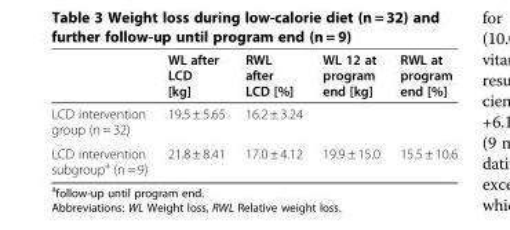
<table><thead><tr><td></td><td>WL after LCD [kg]</td><td>RWL after LCD [%]</td><td>WL 12 at program end [kg]</td><td>RWL at program end [%]</td></tr></thead><tbody><tr><td>LCD intervention group (n = 32)</td><td>19.5 ± 5.65</td><td>16.2 ± 3.24</td><td></td><td></td></tr><tr><td>LCD intervention subgroup<sup>a</sup> (n = 9)</td><td>21.8 ± 8.41</td><td>17.0 ± 4.12</td><td>19.9 ± 15.0</td><td>15.5 ± 10.6</td></tr></tbody></table>